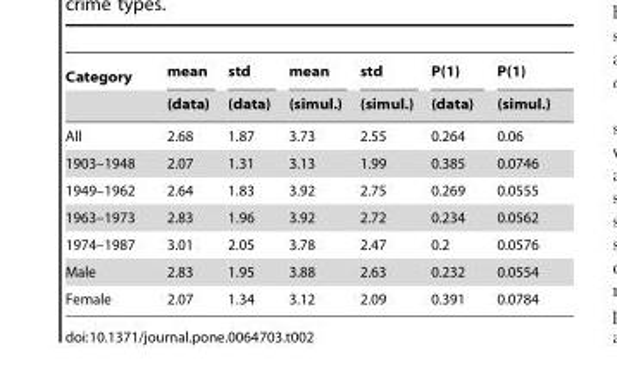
<table><thead><tr><td rowspan="2">Category</td><td rowspan="2">mean (data)</td><td rowspan="2">std (data)</td><td rowspan="2">mean (simul.)</td><td rowspan="2">std (simul.)</td><td rowspan="2">P(1) (data)</td><td rowspan="2">P(1) (simul.)</td></tr><tr></tr></thead><tbody><tr><td>All</td><td>2.68</td><td>1.87</td><td>3.73</td><td>2.55</td><td>0.264</td><td>0.06</td></tr><tr><td>1903–1948</td><td>2.07</td><td>1.31</td><td>3.13</td><td>1.99</td><td>0.385</td><td>0.0746</td></tr><tr><td>1949–1962</td><td>2.64</td><td>1.83</td><td>3.92</td><td>2.75</td><td>0.269</td><td>0.0555</td></tr><tr><td>1963–1973</td><td>2.83</td><td>1.96</td><td>3.92</td><td>2.72</td><td>0.234</td><td>0.0562</td></tr><tr><td>1974–1987</td><td>3.01</td><td>2.05</td><td>3.78</td><td>2.47</td><td>0.2</td><td>0.0576</td></tr><tr><td>Male</td><td>2.83</td><td>1.95</td><td>3.88</td><td>2.63</td><td>0.232</td><td>0.0554</td></tr><tr><td>Female</td><td>2.07</td><td>1.34</td><td>3.12</td><td>2.09</td><td>0.391</td><td>0.0784</td></tr></tbody></table>